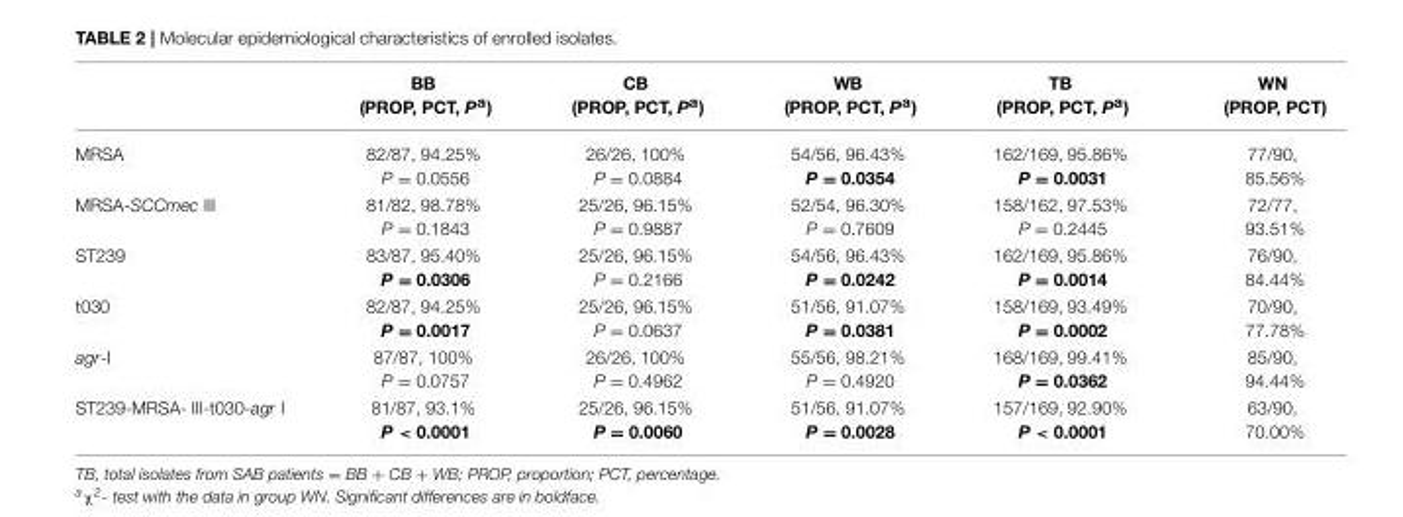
<table><thead><tr><td></td><td>BB (PROP, PCT, P<sup>a</sup>)</td><td>CB (PROP, PCT, P<sup>a</sup>)</td><td>WB (PROP, PCT, P<sup>a</sup>)</td><td>TB (PROP, PCT, P<sup>a</sup>)</td><td>WN (PROP, PCT)</td></tr></thead><tbody><tr><td>MRSA</td><td>82/87, 94.25% P = 0.0556</td><td>26/26, 100% P = 0.0884</td><td>54/56, 96.43% P = 0.0354</td><td>162/169, 95.86% P = 0.0031</td><td>77/90, 85.56%</td></tr><tr><td>MRSA-SCCmec III</td><td>81/82, 98.78% P = 0.1843</td><td>25/26, 96.15% P = 0.9887</td><td>52/54, 96.30% P = 0.7609</td><td>158/162, 97.53% P = 0.2445</td><td>72/77, 93.51%</td></tr><tr><td>ST239</td><td>83/87, 95.40% P = 0.0306</td><td>25/26, 96.15% P = 0.2166</td><td>54/56, 96.43% P = 0.0242</td><td>162/169, 95.86% P = 0.0014</td><td>76/90, 84.44%</td></tr><tr><td>t030</td><td>82/87, 94.25% P = 0.0017</td><td>25/26, 96.15% P = 0.0637</td><td>51/56, 91.07% P = 0.0381</td><td>158/169, 93.49% P = 0.0002</td><td>70/90, 77.78%</td></tr><tr><td>agr-I</td><td>87/87, 100% P = 0.0757</td><td>26/26, 100% P = 0.4962</td><td>55/56, 98.21% P = 0.4920</td><td>168/169, 99.41% P = 0.0362</td><td>85/90, 94.44%</td></tr><tr><td>ST239-MRSA- III-t030-agr I</td><td>81/87, 93.1% P &lt; 0.0001</td><td>25/26, 96.15% P = 0.0060</td><td>51/56, 91.07% P = 0.0028</td><td>157/169, 92.90% P &lt; 0.0001</td><td>63/90, 70.00%</td></tr></tbody></table>